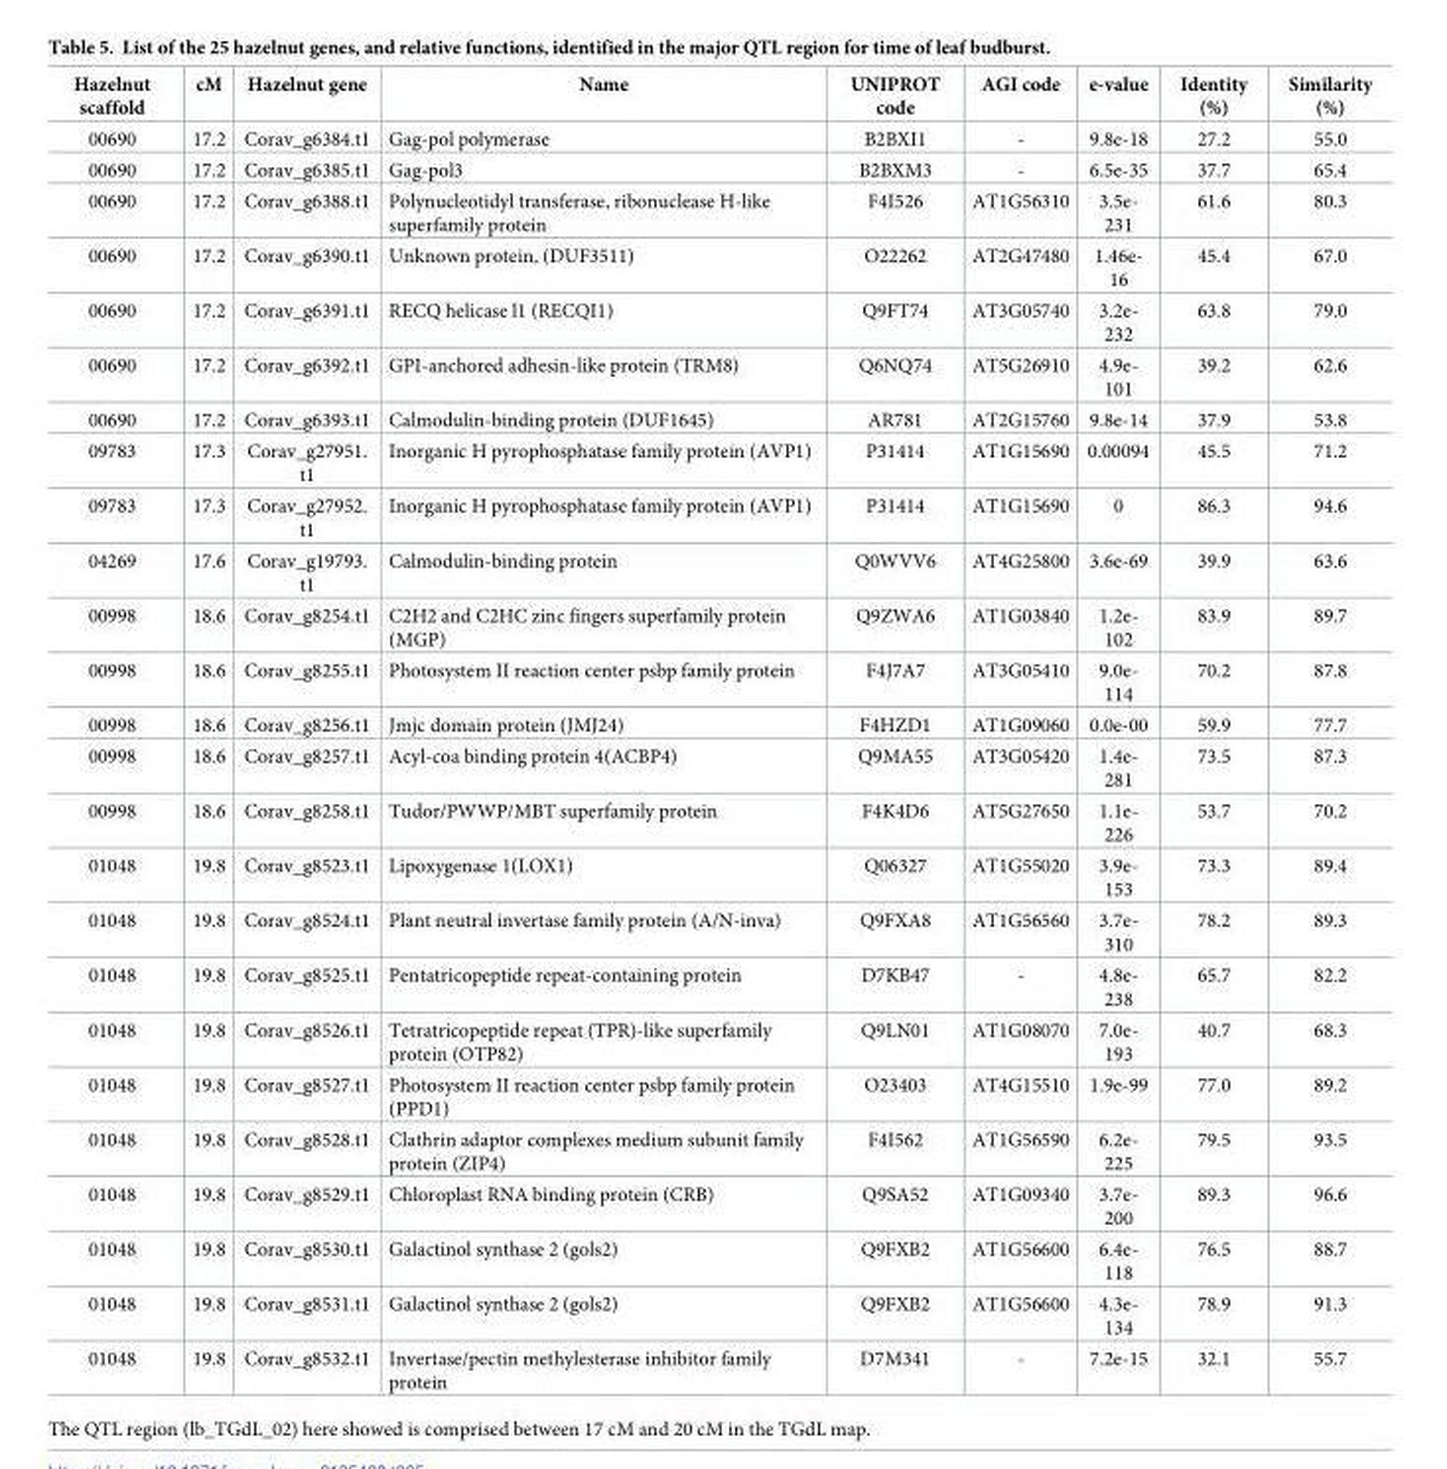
<table><thead><tr><td>Hazelnut scaffold</td><td>cM</td><td>Hazelnut gene</td><td>Name</td><td>UNIPROT code</td><td>AGI code</td><td>e-value</td><td>Identity (%)</td><td>Similarity (%)</td></tr></thead><tbody><tr><td>00690</td><td>17.2</td><td>Corav_g6384.t1</td><td>Gag-pol polymerase</td><td>B2BXI1</td><td>-</td><td>9.8e-18</td><td>27.2</td><td>55.0</td></tr><tr><td>00690</td><td>17.2</td><td>Corav_g6385.t1</td><td>Gag-pol3</td><td>B2BXM3</td><td>-</td><td>6.5e-35</td><td>37.7</td><td>65.4</td></tr><tr><td>00690</td><td>17.2</td><td>Corav_g6388.t1</td><td>Polynucleotidyl transferase, ribonuclease H-like superfamily protein</td><td>F4I526</td><td>AT1G56310</td><td>3.5e- 231</td><td>61.6</td><td>80.3</td></tr><tr><td>00690</td><td>17.2</td><td>Corav_g6390.t1</td><td>Unknown protein, (DUF3511)</td><td>O22262</td><td>AT2G47480</td><td>1.46e- 16</td><td>45.4</td><td>67.0</td></tr><tr><td>00690</td><td>17.2</td><td>Corav_g6391.t1</td><td>RECQ helicase l1 (RECQI1)</td><td>Q9FT74</td><td>AT3G05740</td><td>3.2e- 232</td><td>63.8</td><td>79.0</td></tr><tr><td>00690</td><td>17.2</td><td>Corav_g6392.t1</td><td>GPI-anchored adhesin-like protein (TRM8)</td><td>Q6NQ74</td><td>AT5G26910</td><td>4.9e- 101</td><td>39.2</td><td>62.6</td></tr><tr><td>00690</td><td>17.2</td><td>Corav_g6393.t1</td><td>Calmodulin-binding protein (DUF1645)</td><td>AR781</td><td>AT2G15760</td><td>9.8e-14</td><td>37.9</td><td>53.8</td></tr><tr><td>09783</td><td>17.3</td><td>Corav_g27951. t1</td><td>Inorganic H pyrophosphatase family protein (AVP1)</td><td>P31414</td><td>AT1G15690</td><td>0.00094</td><td>45.5</td><td>71.2</td></tr><tr><td>09783</td><td>17.3</td><td>Corav_g27952. t1</td><td>Inorganic H pyrophosphatase family protein (AVP1)</td><td>P31414</td><td>AT1G15690</td><td>0</td><td>86.3</td><td>94.6</td></tr><tr><td>04269</td><td>17.6</td><td>Corav_g19793. t1</td><td>Calmodulin-binding protein</td><td>Q0WVV6</td><td>AT4G25800</td><td>3.6e-69</td><td>39.9</td><td>63.6</td></tr><tr><td>00998</td><td>18.6</td><td>Corav_g8254.t1</td><td>C2H2 and C2HC zinc fingers superfamily protein (MGP)</td><td>Q9ZWA6</td><td>AT1G03840</td><td>1.2e- 102</td><td>83.9</td><td>89.7</td></tr><tr><td>00998</td><td>18.6</td><td>Corav_g8255.t1</td><td>Photosystem II reaction center psbp family protein</td><td>F4J7A7</td><td>AT3G05410</td><td>9.0e- 114</td><td>70.2</td><td>87.8</td></tr><tr><td>00998</td><td>18.6</td><td>Corav_g8256.t1</td><td>Jmjc domain protein (JMJ24)</td><td>F4HZD1</td><td>AT1G09060</td><td>0.0e-00</td><td>59.9</td><td>77.7</td></tr><tr><td>00998</td><td>18.6</td><td>Corav_g8257.t1</td><td>Acyl-coa binding protein 4(ACBP4)</td><td>Q9MA55</td><td>AT3G05420</td><td>1.4e- 281</td><td>73.5</td><td>87.3</td></tr><tr><td>00998</td><td>18.6</td><td>Corav_g8258.t1</td><td>Tudor/PWWP/MBT superfamily protein</td><td>F4K4D6</td><td>AT5G27650</td><td>1.1e- 226</td><td>53.7</td><td>70.2</td></tr><tr><td>01048</td><td>19.8</td><td>Corav_g8523.t1</td><td>Lipoxygenase 1(LOX1)</td><td>Q06327</td><td>AT1G55020</td><td>3.9e- 153</td><td>73.3</td><td>89.4</td></tr><tr><td>01048</td><td>19.8</td><td>Corav_g8524.t1</td><td>Plant neutral invertase family protein (A/N-inva)</td><td>Q9FXA8</td><td>AT1G56560</td><td>3.7e- 310</td><td>78.2</td><td>89.3</td></tr><tr><td>01048</td><td>19.8</td><td>Corav_g8525.t1</td><td>Pentatricopeptide repeat-containing protein</td><td>D7KB47</td><td>-</td><td>4.8e- 238</td><td>65.7</td><td>82.2</td></tr><tr><td>01048</td><td>19.8</td><td>Corav_g8526.t1</td><td>Tetratricopeptide repeat (TPR)-like superfamily protein (OTP82)</td><td>Q9LN01</td><td>AT1G08070</td><td>7.0e- 193</td><td>40.7</td><td>68.3</td></tr><tr><td>01048</td><td>19.8</td><td>Corav_g8527.t1</td><td>Photosystem II reaction center psbp family protein (PPD1)</td><td>O23403</td><td>AT4G15510</td><td>1.9e-99</td><td>77.0</td><td>89.2</td></tr><tr><td>01048</td><td>19.8</td><td>Corav_g8528.t1</td><td>Clathrin adaptor complexes medium subunit family protein (ZIP4)</td><td>F4I562</td><td>AT1G56590</td><td>6.2e- 225</td><td>79.5</td><td>93.5</td></tr><tr><td>01048</td><td>19.8</td><td>Corav_g8529.t1</td><td>Chloroplast RNA binding protein (CRB)</td><td>Q9SA52</td><td>AT1G09340</td><td>3.7e- 200</td><td>89.3</td><td>96.6</td></tr><tr><td>01048</td><td>19.8</td><td>Corav_g8530.t1</td><td>Galactinol synthase 2 (gols2)</td><td>Q9FXB2</td><td>AT1G56600</td><td>6.4e- 118</td><td>76.5</td><td>88.7</td></tr><tr><td>01048</td><td>19.8</td><td>Corav_g8531.t1</td><td>Galactinol synthase 2 (gols2)</td><td>Q9FXB2</td><td>AT1G56600</td><td>4.3e- 134</td><td>78.9</td><td>91.3</td></tr><tr><td>01048</td><td>19.8</td><td>Corav_g8532.t1</td><td>Invertase/pectin methylesterase inhibitor family protein</td><td>D7M341</td><td>-</td><td>7.2e-15</td><td>32.1</td><td>55.7</td></tr></tbody></table>